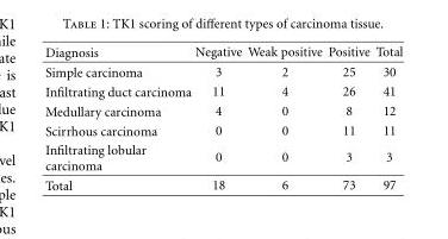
<table><thead><tr><td>Diagnosis</td><td>Negative</td><td>Weak positive</td><td>Positive</td><td>Total</td></tr></thead><tbody><tr><td>Simple carcinoma</td><td>3</td><td>2</td><td>25</td><td>30</td></tr><tr><td>Infiltrating duct carcinoma</td><td>11</td><td>4</td><td>26</td><td>41</td></tr><tr><td>Medullary carcinoma</td><td>4</td><td>0</td><td>8</td><td>12</td></tr><tr><td>Scirrhous carcinoma</td><td>0</td><td>0</td><td>11</td><td>11</td></tr><tr><td>Infiltrating lobular carcinoma</td><td>0</td><td>0</td><td>3</td><td>3</td></tr><tr><td>Total</td><td>18</td><td>6</td><td>73</td><td>97</td></tr></tbody></table>